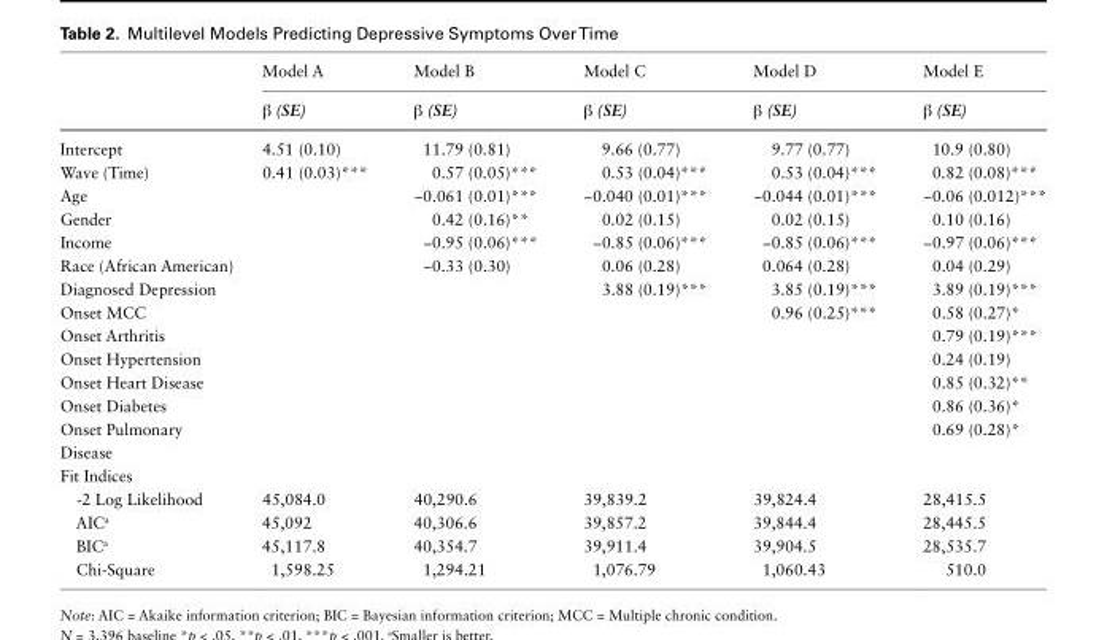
<table><thead><tr><td rowspan="2"></td><td rowspan="2">Model A β (SE)</td><td rowspan="2">Model B β (SE)</td><td rowspan="2">Model C β (SE)</td><td rowspan="2">Model D β (SE)</td><td rowspan="2">Model E β (SE)</td></tr><tr></tr></thead><tbody><tr><td>Intercept</td><td>4.51 (0.10)</td><td>11.79 (0.81)</td><td>9.66 (0.77)</td><td>9.77 (0.77)</td><td>10.9 (0.80)</td></tr><tr><td>Wave (Time)</td><td>0.41 (0.03)***</td><td>0.57 (0.05)***</td><td>0.53 (0.04)***</td><td>0.53 (0.04)***</td><td>0.82 (0.08)***</td></tr><tr><td>Age</td><td></td><td>−0.061 (0.01)***</td><td>−0.040 (0.01)***</td><td>−0.044 (0.01)***</td><td>−0.06 (0.012)***</td></tr><tr><td>Gender</td><td></td><td>0.42 (0.16)**</td><td>0.02 (0.15)</td><td>0.02 (0.15)</td><td>0.10 (0.16)</td></tr><tr><td>Income</td><td></td><td>−0.95 (0.06)***</td><td>−0.85 (0.06)***</td><td>−0.85 (0.06)***</td><td>−0.97 (0.06)***</td></tr><tr><td>Race (African American)</td><td></td><td>−0.33 (0.30)</td><td>0.06 (0.28)</td><td>0.064 (0.28)</td><td>0.04 (0.29)</td></tr><tr><td>Diagnosed Depression</td><td></td><td></td><td>3.88 (0.19)***</td><td>3.85 (0.19)***</td><td>3.89 (0.19)***</td></tr><tr><td>Onset MCC</td><td></td><td></td><td></td><td>0.96 (0.25)***</td><td>0.58 (0.27)*</td></tr><tr><td>Onset Arthritis</td><td></td><td></td><td></td><td></td><td>0.79 (0.19)***</td></tr><tr><td>Onset Hypertension</td><td></td><td></td><td></td><td></td><td>0.24 (0.19)</td></tr><tr><td>Onset Heart Disease</td><td></td><td></td><td></td><td></td><td>0.85 (0.32)**</td></tr><tr><td>Onset Diabetes</td><td></td><td></td><td></td><td></td><td>0.86 (0.36)*</td></tr><tr><td>Onset Pulmonary Disease</td><td></td><td></td><td></td><td></td><td>0.69 (0.28)*</td></tr><tr><td colspan="6">Fit Indices</td></tr><tr><td>-2 Log Likelihood</td><td>45,084.0</td><td>40,290.6</td><td>39,839.2</td><td>39,824.4</td><td>28,415.5</td></tr><tr><td>AIC<sup>a</sup></td><td>45,092</td><td>40,306.6</td><td>39,857.2</td><td>39,844.4</td><td>28,445.5</td></tr><tr><td>BIC<sup>a</sup></td><td>45,117.8</td><td>40,354.7</td><td>39,911.4</td><td>39,904.5</td><td>28,535.7</td></tr><tr><td>Chi-Square</td><td>1,598.25</td><td>1,294.21</td><td>1,076.79</td><td>1,060.43</td><td>510.0</td></tr></tbody></table>